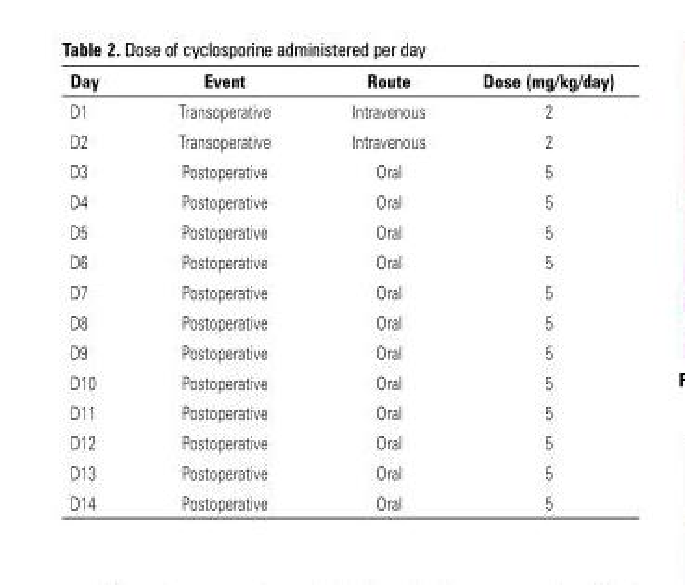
<table><thead><tr><td>Day</td><td>Event</td><td>Route</td><td>Dose (mg/kg/day)</td></tr></thead><tbody><tr><td>D1</td><td>Transoperative</td><td>Intravenous</td><td>2</td></tr><tr><td>D2</td><td>Transoperative</td><td>Intravenous</td><td>2</td></tr><tr><td>D3</td><td>Postoperative</td><td>Oral</td><td>5</td></tr><tr><td>D4</td><td>Postoperative</td><td>Oral</td><td>5</td></tr><tr><td>D5</td><td>Postoperative</td><td>Oral</td><td>5</td></tr><tr><td>D6</td><td>Postoperative</td><td>Oral</td><td>5</td></tr><tr><td>D7</td><td>Postoperative</td><td>Oral</td><td>5</td></tr><tr><td>D8</td><td>Postoperative</td><td>Oral</td><td>5</td></tr><tr><td>D9</td><td>Postoperative</td><td>Oral</td><td>5</td></tr><tr><td>D10</td><td>Postoperative</td><td>Oral</td><td>5</td></tr><tr><td>D11</td><td>Postoperative</td><td>Oral</td><td>5</td></tr><tr><td>D12</td><td>Postoperative</td><td>Oral</td><td>5</td></tr><tr><td>D13</td><td>Postoperative</td><td>Oral</td><td>5</td></tr><tr><td>D14</td><td>Postoperative</td><td>Oral</td><td>5</td></tr></tbody></table>